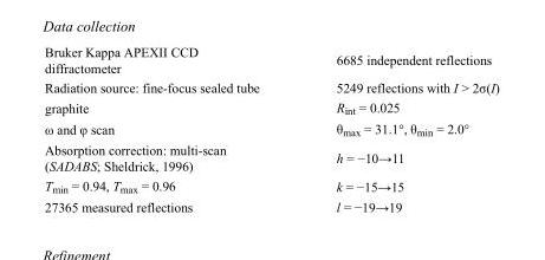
<table><tbody><tr><td>Bruker Kappa APEXII CCD diffractometer</td><td>6685 independent reflections</td></tr><tr><td>Radiation source: fine-focus sealed tube</td><td>5249 reflections with I &gt; 2σ(I)</td></tr><tr><td>graphite</td><td>R<sub>int</sub> = 0.025</td></tr><tr><td>ω and φ scan</td><td>θ<sub>max</sub> = 31.1°, θ<sub>min</sub> = 2.0°</td></tr><tr><td>Absorption correction: multi-scan (SADABS; Sheldrick, 1996)</td><td>h = −10→11</td></tr><tr><td>T<sub>min</sub> = 0.94, T<sub>max</sub> = 0.96</td><td>k = −15→15</td></tr><tr><td>27365 measured reflections</td><td>l = −19→19</td></tr></tbody></table>